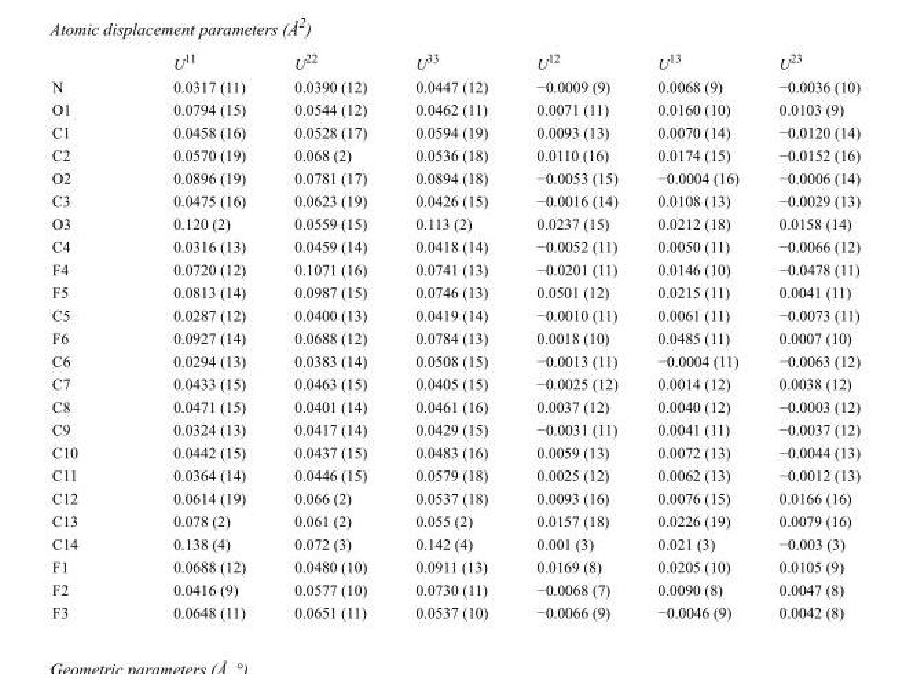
<table><thead><tr><td></td><td>U<sup>11</sup></td><td>U<sup>22</sup></td><td>U<sup>33</sup></td><td>U<sup>12</sup></td><td>U<sup>13</sup></td><td>U<sup>23</sup></td></tr></thead><tbody><tr><td>N</td><td>0.0317 (11)</td><td>0.0390 (12)</td><td>0.0447 (12)</td><td>−0.0009 (9)</td><td>0.0068 (9)</td><td>−0.0036 (10)</td></tr><tr><td>O1</td><td>0.0794 (15)</td><td>0.0544 (12)</td><td>0.0462 (11)</td><td>0.0071 (11)</td><td>0.0160 (10)</td><td>0.0103 (9)</td></tr><tr><td>C1</td><td>0.0458 (16)</td><td>0.0528 (17)</td><td>0.0594 (19)</td><td>0.0093 (13)</td><td>0.0070 (14)</td><td>−0.0120 (14)</td></tr><tr><td>C2</td><td>0.0570 (19)</td><td>0.068 (2)</td><td>0.0536 (18)</td><td>0.0110 (16)</td><td>0.0174 (15)</td><td>−0.0152 (16)</td></tr><tr><td>O2</td><td>0.0896 (19)</td><td>0.0781 (17)</td><td>0.0894 (18)</td><td>−0.0053 (15)</td><td>−0.0004 (16)</td><td>−0.0006 (14)</td></tr><tr><td>C3</td><td>0.0475 (16)</td><td>0.0623 (19)</td><td>0.0426 (15)</td><td>−0.0016 (14)</td><td>0.0108 (13)</td><td>−0.0029 (13)</td></tr><tr><td>O3</td><td>0.120 (2)</td><td>0.0559 (15)</td><td>0.113 (2)</td><td>0.0237 (15)</td><td>0.0212 (18)</td><td>0.0158 (14)</td></tr><tr><td>C4</td><td>0.0316 (13)</td><td>0.0459 (14)</td><td>0.0418 (14)</td><td>−0.0052 (11)</td><td>0.0050 (11)</td><td>−0.0066 (12)</td></tr><tr><td>F4</td><td>0.0720 (12)</td><td>0.1071 (16)</td><td>0.0741 (13)</td><td>−0.0201 (11)</td><td>0.0146 (10)</td><td>−0.0478 (11)</td></tr><tr><td>F5</td><td>0.0813 (14)</td><td>0.0987 (15)</td><td>0.0746 (13)</td><td>0.0501 (12)</td><td>0.0215 (11)</td><td>0.0041 (11)</td></tr><tr><td>C5</td><td>0.0287 (12)</td><td>0.0400 (13)</td><td>0.0419 (14)</td><td>−0.0010 (11)</td><td>0.0061 (11)</td><td>−0.0073 (11)</td></tr><tr><td>F6</td><td>0.0927 (14)</td><td>0.0688 (12)</td><td>0.0784 (13)</td><td>0.0018 (10)</td><td>0.0485 (11)</td><td>0.0007 (10)</td></tr><tr><td>C6</td><td>0.0294 (13)</td><td>0.0383 (14)</td><td>0.0508 (15)</td><td>−0.0013 (11)</td><td>−0.0004 (11)</td><td>−0.0063 (12)</td></tr><tr><td>C7</td><td>0.0433 (15)</td><td>0.0463 (15)</td><td>0.0405 (15)</td><td>−0.0025 (12)</td><td>0.0014 (12)</td><td>0.0038 (12)</td></tr><tr><td>C8</td><td>0.0471 (15)</td><td>0.0401 (14)</td><td>0.0461 (16)</td><td>0.0037 (12)</td><td>0.0040 (12)</td><td>−0.0003 (12)</td></tr><tr><td>C9</td><td>0.0324 (13)</td><td>0.0417 (14)</td><td>0.0429 (15)</td><td>−0.0031 (11)</td><td>0.0041 (11)</td><td>−0.0037 (12)</td></tr><tr><td>C10</td><td>0.0442 (15)</td><td>0.0437 (15)</td><td>0.0483 (16)</td><td>0.0059 (13)</td><td>0.0072 (13)</td><td>−0.0044 (13)</td></tr><tr><td>C11</td><td>0.0364 (14)</td><td>0.0446 (15)</td><td>0.0579 (18)</td><td>0.0025 (12)</td><td>0.0062 (13)</td><td>−0.0012 (13)</td></tr><tr><td>C12</td><td>0.0614 (19)</td><td>0.066 (2)</td><td>0.0537 (18)</td><td>0.0093 (16)</td><td>0.0076 (15)</td><td>0.0166 (16)</td></tr><tr><td>C13</td><td>0.078 (2)</td><td>0.061 (2)</td><td>0.055 (2)</td><td>0.0157 (18)</td><td>0.0226 (19)</td><td>0.0079 (16)</td></tr><tr><td>C14</td><td>0.138 (4)</td><td>0.072 (3)</td><td>0.142 (4)</td><td>0.001 (3)</td><td>0.021 (3)</td><td>−0.003 (3)</td></tr><tr><td>F1</td><td>0.0688 (12)</td><td>0.0480 (10)</td><td>0.0911 (13)</td><td>0.0169 (8)</td><td>0.0205 (10)</td><td>0.0105 (9)</td></tr><tr><td>F2</td><td>0.0416 (9)</td><td>0.0577 (10)</td><td>0.0730 (11)</td><td>−0.0068 (7)</td><td>0.0090 (8)</td><td>0.0047 (8)</td></tr><tr><td>F3</td><td>0.0648 (11)</td><td>0.0651 (11)</td><td>0.0537 (10)</td><td>−0.0066 (9)</td><td>−0.0046 (9)</td><td>0.0042 (8)</td></tr></tbody></table>